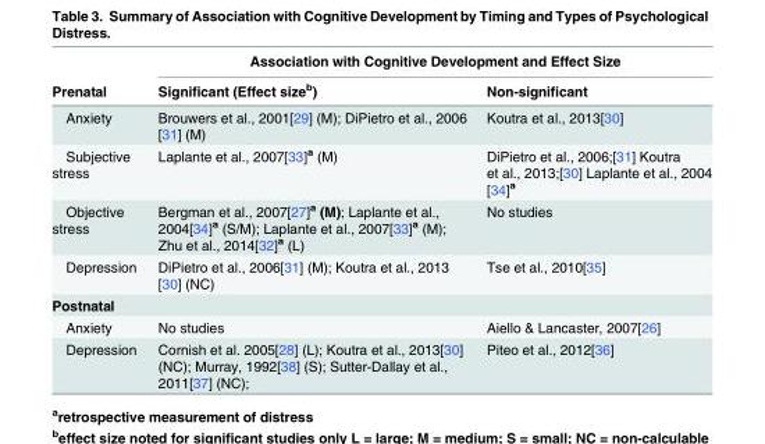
<table><thead><tr><td rowspan="2">Prenatal</td><td colspan="2">Association with Cognitive Development and Effect Size</td></tr><tr><td>Significant (Effect size<sup>b</sup>)</td><td>Non-significant</td></tr></thead><tbody><tr><td>Anxiety</td><td>Brouwers et al., 2001[29] (M); DiPietro et al., 2006 [31] (M)</td><td>Koutra et al., 2013[30]</td></tr><tr><td>Subjective stress</td><td>Laplante et al., 2007[33]<sup>a</sup> (M)</td><td>DiPietro et al., 2006;[31] Koutra et al., 2013;[30] Laplante et al., 2004 [34]<sup>a</sup></td></tr><tr><td>Objective stress</td><td>Bergman et al., 2007[27]<sup>a</sup> (M); Laplante et al., 2004[34]<sup>a</sup> (S/M); Laplante et al., 2007[33]<sup>a</sup> (M); Zhu et al., 2014[32]<sup>a</sup> (L)</td><td>No studies</td></tr><tr><td>Depression</td><td>DiPietro et al., 2006[31] (M); Koutra et al., 2013 [30] (NC)</td><td>Tse et al., 2010[35]</td></tr><tr><td colspan="3">Postnatal</td></tr><tr><td>Anxiety</td><td>No studies</td><td>Aiello &amp; Lancaster, 2007[26]</td></tr><tr><td>Depression</td><td>Cornish et al. 2005[28] (L); Koutra et al., 2013[30] (NC); Murray, 1992[38] (S); Sutter-Dallay et al., 2011[37] (NC);</td><td>Piteo et al., 2012[36]</td></tr></tbody></table>